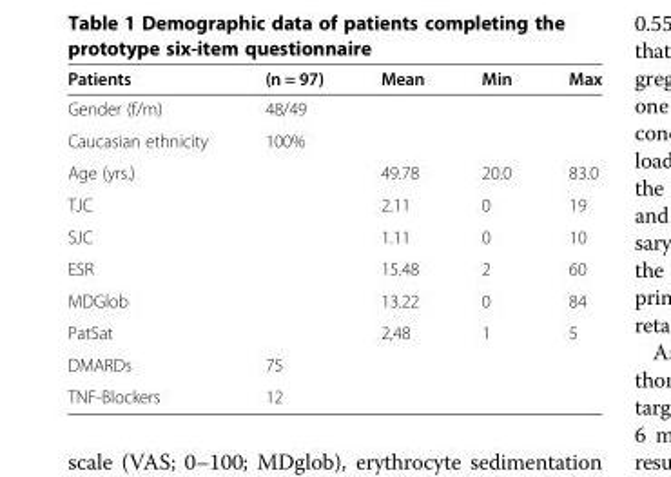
<table><thead><tr><td>Patients</td><td>(n = 97)</td><td>Mean</td><td>Min</td><td>Max</td></tr></thead><tbody><tr><td>Gender (f/m)</td><td>48/49</td><td></td><td></td><td></td></tr><tr><td>Caucasian ethnicity</td><td>100%</td><td></td><td></td><td></td></tr><tr><td>Age (yrs.)</td><td></td><td>49.78</td><td>20.0</td><td>83.0</td></tr><tr><td>TJC</td><td></td><td>2.11</td><td>0</td><td>19</td></tr><tr><td>SJC</td><td></td><td>1.11</td><td>0</td><td>10</td></tr><tr><td>ESR</td><td></td><td>15.48</td><td>2</td><td>60</td></tr><tr><td>MDGlob</td><td></td><td>13.22</td><td>0</td><td>84</td></tr><tr><td>PatSat</td><td></td><td>2,48</td><td>1</td><td>5</td></tr><tr><td>DMARDs</td><td>75</td><td></td><td></td><td></td></tr><tr><td>TNF-Blockers</td><td>12</td><td></td><td></td><td></td></tr></tbody></table>